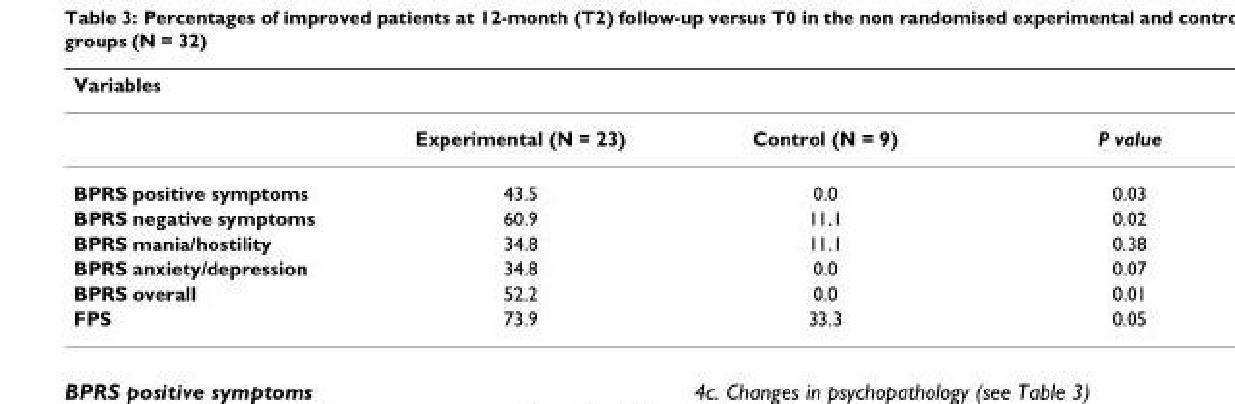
<table><thead><tr><td>Variables</td><td></td><td></td><td></td></tr></thead><tbody><tr><td></td><td>Experimental (N = 23)</td><td>Control (N = 9)</td><td>P value</td></tr><tr><td>BPRS positive symptoms</td><td>43.5</td><td>0.0</td><td>0.03</td></tr><tr><td>BPRS negative symptoms</td><td>60.9</td><td>11.1</td><td>0.02</td></tr><tr><td>BPRS mania/hostility</td><td>34.8</td><td>11.1</td><td>0.38</td></tr><tr><td>BPRS anxiety/depression</td><td>34.8</td><td>0.0</td><td>0.07</td></tr><tr><td>BPRS overall</td><td>52.2</td><td>0.0</td><td>0.01</td></tr><tr><td>FPS</td><td>73.9</td><td>33.3</td><td>0.05</td></tr></tbody></table>